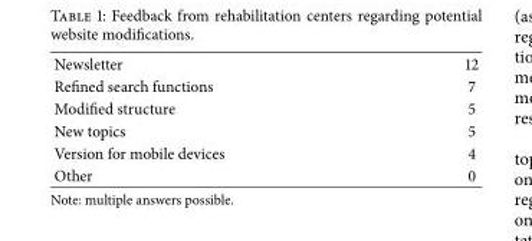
<table><tbody><tr><td>Newsletter</td><td>12</td></tr><tr><td>Refined search functions</td><td>7</td></tr><tr><td>Modified structure</td><td>5</td></tr><tr><td>New topics</td><td>5</td></tr><tr><td>Version for mobile devices</td><td>4</td></tr><tr><td>Other</td><td>0</td></tr></tbody></table>